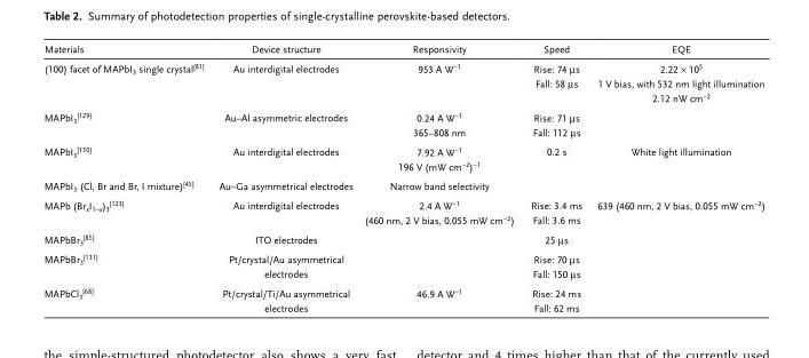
<table><thead><tr><td>Materials</td><td>Device structure</td><td>Responsivity</td><td>Speed</td><td>EQE</td></tr></thead><tbody><tr><td>(100) facet of MAPbI3 single crystal[81]</td><td>Au interdigital electrodes</td><td>953 A W<sup>−1</sup></td><td>Rise: 74 µs Fall: 58 µs</td><td>2.22 × 10<sup>5</sup> 1 V bias, with 532 nm light illumination 2.12 nW cm<sup>−2</sup></td></tr><tr><td>MAPbI3[129]</td><td>Au–Al asymmetric electrodes</td><td>0.24 A W<sup>−1</sup> 365–808 nm</td><td>Rise: 71 µs Fall: 112 µs</td><td></td></tr><tr><td>MAPbI3[130]</td><td>Au interdigital electrodes</td><td>7.92 A W<sup>−1</sup> 196 V (mW cm<sup>−2</sup>)<sup>−1</sup></td><td>0.2 s</td><td>White light illumination</td></tr><tr><td>MAPbI3 (Cl, Br and Br, I mixture)[45]</td><td>Au–Ga asymmetrical electrodes</td><td>Narrow band selectivity</td><td></td><td></td></tr><tr><td>MAPb (BrxI1−x)3[123]</td><td>Au interdigital electrodes</td><td>2.4 A W<sup>−1</sup> (460 nm, 2 V bias, 0.055 mW cm<sup>−2</sup>)</td><td>Rise: 3.4 ms Fall: 3.6 ms</td><td>639 (460 nm, 2 V bias, 0.055 mW cm<sup>−2</sup>)</td></tr><tr><td>MAPbBr3[85]</td><td>ITO electrodes</td><td></td><td>25 µs</td><td></td></tr><tr><td>MAPbBr3[131]</td><td>Pt/crystal/Au asymmetrical electrodes</td><td></td><td>Rise: 70 µs Fall: 150 µs</td><td></td></tr><tr><td>MAPbCl3[68]</td><td>Pt/crystal/Ti/Au asymmetrical electrodes</td><td>46.9 A W<sup>−1</sup></td><td>Rise: 24 ms Fall: 62 ms</td><td></td></tr></tbody></table>